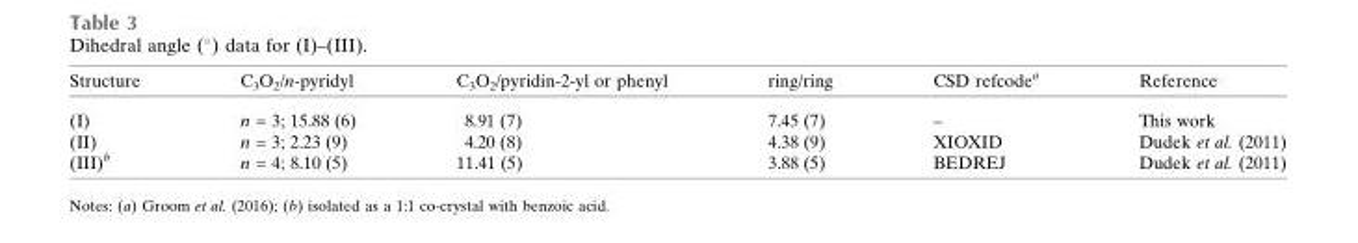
<table><thead><tr><td>Structure</td><td>C<sub>3</sub>O<sub>2</sub>/n-pyridyl</td><td>C<sub>3</sub>O<sub>2</sub>/pyridin-2-yl or phenyl</td><td>ring/ring</td><td>CSD refcode<sup>a</sup></td><td>Reference</td></tr></thead><tbody><tr><td>(I)</td><td>n = 3; 15.88 (6)</td><td>8.91 (7)</td><td>7.45 (7)</td><td>–</td><td>This work</td></tr><tr><td>(II)</td><td>n = 3; 2.23 (9)</td><td>4.20 (8)</td><td>4.38 (9)</td><td>XIOXID</td><td>Dudek et al. (2011)</td></tr><tr><td>(III)<sup>b</sup></td><td>n = 4; 8.10 (5)</td><td>11.41 (5)</td><td>3.88 (5)</td><td>BEDREJ</td><td>Dudek et al. (2011)</td></tr></tbody></table>